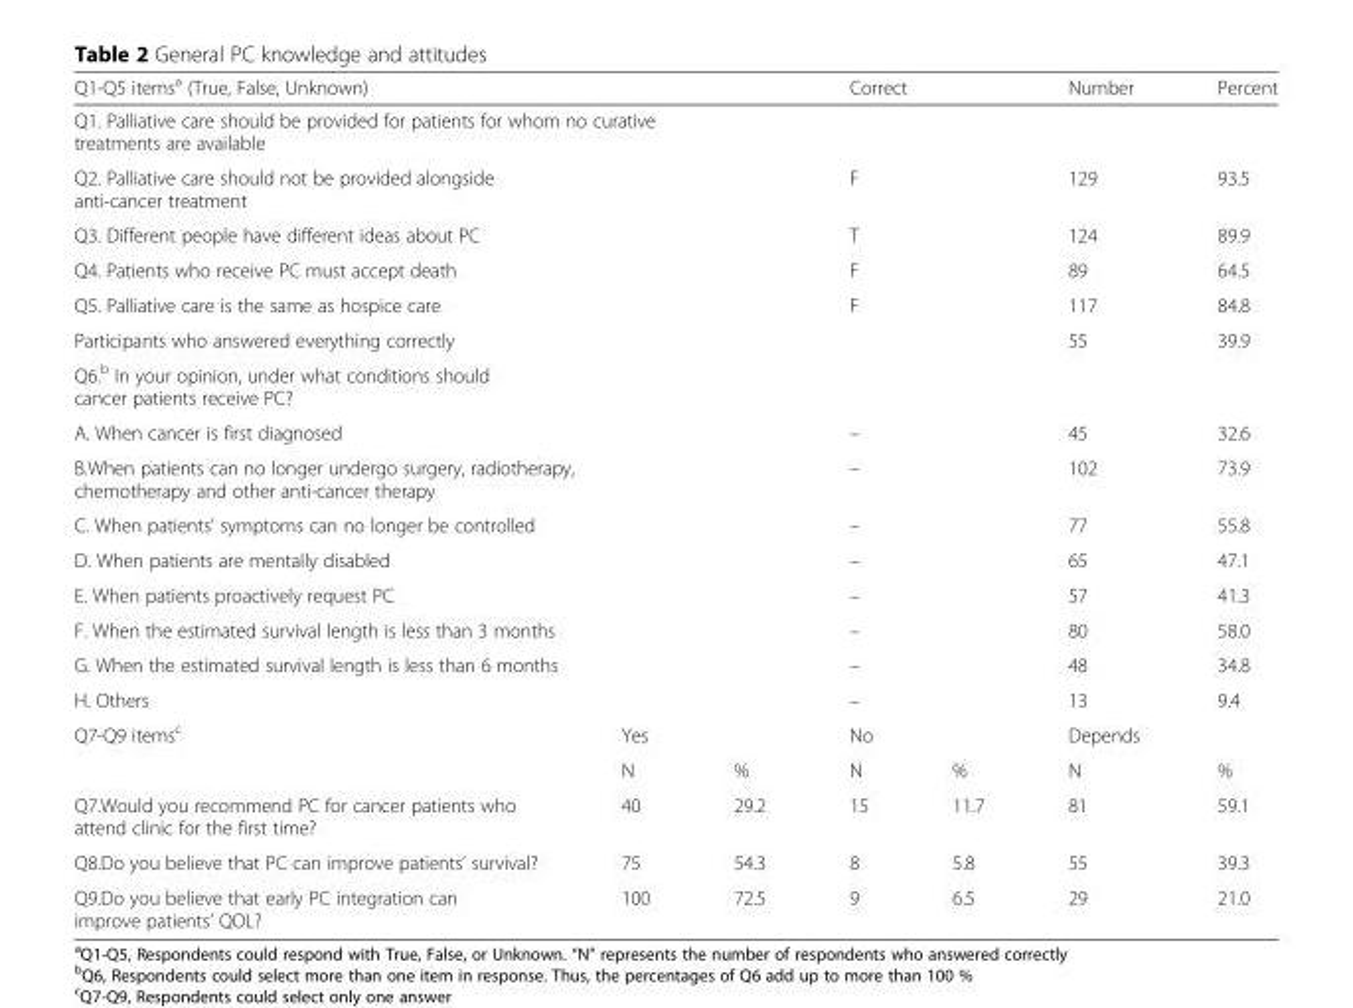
<table><thead><tr><td colspan="3">Q1-Q5 items<sup>a</sup> (True, False, Unknown)</td><td colspan="2">Correct</td><td>Number</td><td>Percent</td></tr></thead><tbody><tr><td colspan="7">Q1. Palliative care should be provided for patients for whom no curative treatments are available</td></tr><tr><td colspan="3">Q2. Palliative care should not be provided alongside anti-cancer treatment</td><td colspan="2">F</td><td>129</td><td>93.5</td></tr><tr><td colspan="3">Q3. Different people have different ideas about PC</td><td colspan="2">T</td><td>124</td><td>89.9</td></tr><tr><td colspan="3">Q4. Patients who receive PC must accept death</td><td colspan="2">F</td><td>89</td><td>64.5</td></tr><tr><td colspan="3">Q5. Palliative care is the same as hospice care</td><td colspan="2">F</td><td>117</td><td>84.8</td></tr><tr><td colspan="3">Participants who answered everything correctly</td><td colspan="2"></td><td>55</td><td>39.9</td></tr><tr><td colspan="7">Q6.<sup>b</sup> In your opinion, under what conditions should cancer patients receive PC?</td></tr><tr><td colspan="3">A. When cancer is first diagnosed</td><td colspan="2">–</td><td>45</td><td>32.6</td></tr><tr><td colspan="3">B.When patients can no longer undergo surgery, radiotherapy, chemotherapy and other anti-cancer therapy</td><td colspan="2">–</td><td>102</td><td>73.9</td></tr><tr><td colspan="3">C. When patients’ symptoms can no longer be controlled</td><td colspan="2">–</td><td>77</td><td>55.8</td></tr><tr><td colspan="3">D. When patients are mentally disabled</td><td colspan="2">–</td><td>65</td><td>47.1</td></tr><tr><td colspan="3">E. When patients proactively request PC</td><td colspan="2">–</td><td>57</td><td>41.3</td></tr><tr><td colspan="3">F. When the estimated survival length is less than 3 months</td><td colspan="2">–</td><td>80</td><td>58.0</td></tr><tr><td colspan="3">G. When the estimated survival length is less than 6 months</td><td colspan="2">–</td><td>48</td><td>34.8</td></tr><tr><td colspan="3">H. Others</td><td colspan="2">–</td><td>13</td><td>9.4</td></tr><tr><td rowspan="2">Q7-Q9 items<sup>c</sup></td><td colspan="2">Yes</td><td colspan="2">No</td><td colspan="2">Depends</td></tr><tr><td>N</td><td>%</td><td>N</td><td>%</td><td>N</td><td>%</td></tr><tr><td>Q7.Would you recommend PC for cancer patients who attend clinic for the first time?</td><td>40</td><td>29.2</td><td>15</td><td>11.7</td><td>81</td><td>59.1</td></tr><tr><td>Q8.Do you believe that PC can improve patients’ survival?</td><td>75</td><td>54.3</td><td>8</td><td>5.8</td><td>55</td><td>39.3</td></tr><tr><td>Q9.Do you believe that early PC integration can improve patients’ QOL?</td><td>100</td><td>72.5</td><td>9</td><td>6.5</td><td>29</td><td>21.0</td></tr></tbody></table>